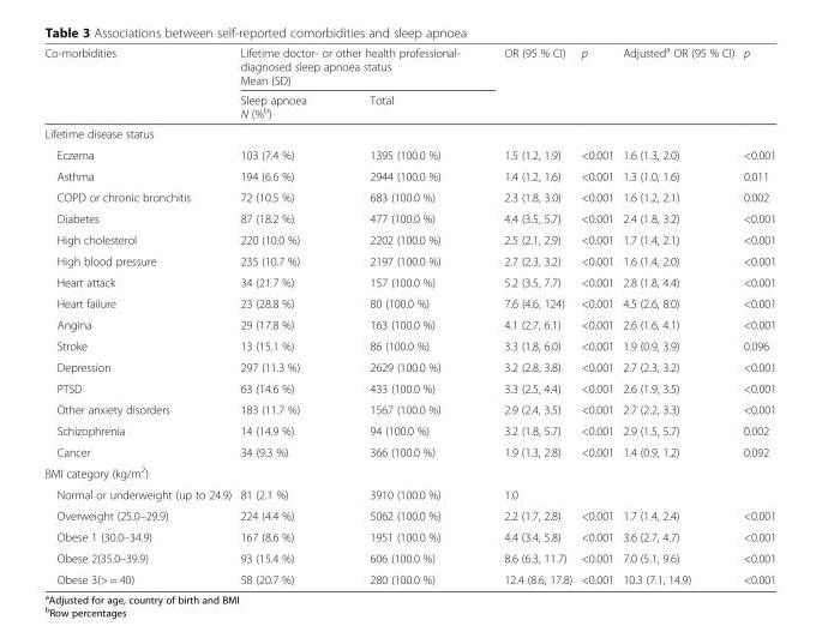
<table><thead><tr><td rowspan="2">Co-morbidities</td><td colspan="2">Lifetime doctor- or other health professional- diagnosed sleep apnoea status Mean (SD)</td><td rowspan="2">OR (95 % CI)</td><td rowspan="2">p</td><td rowspan="2">Adjusted<sup>a</sup> OR (95 % CI)</td><td rowspan="2">p</td></tr><tr><td>Sleep apnoea N (%<sup>b</sup>)</td><td>Total</td></tr></thead><tbody><tr><td colspan="7">Lifetime disease status</td></tr><tr><td>Eczema</td><td>103 (7.4 %)</td><td>1395 (100.0 %)</td><td>1.5 (1.2, 1.9)</td><td>&lt;0.001</td><td>1.6 (1.3, 2.0)</td><td>&lt;0.001</td></tr><tr><td>Asthma</td><td>194 (6.6 %)</td><td>2944 (100.0 %)</td><td>1.4 (1.2, 1.6)</td><td>&lt;0.001</td><td>1.3 (1.0, 1.6)</td><td>0.011</td></tr><tr><td>COPD or chronic bronchitis</td><td>72 (10.5 %)</td><td>683 (100.0 %)</td><td>2.3 (1.8, 3.0)</td><td>&lt;0.001</td><td>1.6 (1.2, 2.1)</td><td>0.002</td></tr><tr><td>Diabetes</td><td>87 (18.2 %)</td><td>477 (100.0 %)</td><td>4.4 (3.5, 5.7)</td><td>&lt;0.001</td><td>2.4 (1.8, 3.2)</td><td>&lt;0.001</td></tr><tr><td>High cholesterol</td><td>220 (10.0 %)</td><td>2202 (100.0 %)</td><td>2.5 (2.1, 2.9)</td><td>&lt;0.001</td><td>1.7 (1.4, 2.1)</td><td>&lt;0.001</td></tr><tr><td>High blood pressure</td><td>235 (10.7 %)</td><td>2197 (100.0 %)</td><td>2.7 (2.3, 3.2)</td><td>&lt;0.001</td><td>1.6 (1.4, 2.0)</td><td>&lt;0.001</td></tr><tr><td>Heart attack</td><td>34 (21.7 %)</td><td>157 (100.0 %)</td><td>5.2 (3.5, 7.7)</td><td>&lt;0.001</td><td>2.8 (1.8, 4.4)</td><td>&lt;0.001</td></tr><tr><td>Heart failure</td><td>23 (28.8 %)</td><td>80 (100.0 %)</td><td>7.6 (4.6, 124)</td><td>&lt;0.001</td><td>4.5 (2.6, 8.0)</td><td>&lt;0.001</td></tr><tr><td>Angina</td><td>29 (17.8 %)</td><td>163 (100.0 %)</td><td>4.1 (2.7, 6.1)</td><td>&lt;0.001</td><td>2.6 (1.6, 4.1)</td><td>&lt;0.001</td></tr><tr><td>Stroke</td><td>13 (15.1 %)</td><td>86 (100.0 %)</td><td>3.3 (1.8, 6.0)</td><td>&lt;0.001</td><td>1.9 (0.9, 3.9)</td><td>0.096</td></tr><tr><td>Depression</td><td>297 (11.3 %)</td><td>2629 (100.0 %)</td><td>3.2 (2.8, 3.8)</td><td>&lt;0.001</td><td>2.7 (2.3, 3.2)</td><td>&lt;0.001</td></tr><tr><td>PTSD</td><td>63 (14.6 %)</td><td>433 (100.0 %)</td><td>3.3 (2.5, 4.4)</td><td>&lt;0.001</td><td>2.6 (1.9, 3.5)</td><td>&lt;0.001</td></tr><tr><td>Other anxiety disorders</td><td>183 (11.7 %)</td><td>1567 (100.0 %)</td><td>2.9 (2.4, 3.5)</td><td>&lt;0.001</td><td>2.7 (2.2, 3.3)</td><td>&lt;0.001</td></tr><tr><td>Schizophrenia</td><td>14 (14.9 %)</td><td>94 (100.0 %)</td><td>3.2 (1.8, 5.7)</td><td>&lt;0.001</td><td>2.9 (1.5, 5.7)</td><td>0.002</td></tr><tr><td>Cancer</td><td>34 (9.3 %)</td><td>366 (100.0 %)</td><td>1.9 (1.3, 2.8)</td><td>&lt;0.001</td><td>1.4 (0.9, 1.2)</td><td>0.092</td></tr><tr><td colspan="7">BMI category (kg/m<sup>2</sup>)</td></tr><tr><td>Normal or underweight (up to 24.9)</td><td>81 (2.1 %)</td><td>3910 (100.0 %)</td><td>1.0</td><td></td><td></td><td></td></tr><tr><td>Overweight (25.0–29.9)</td><td>224 (4.4 %)</td><td>5062 (100.0 %)</td><td>2.2 (1.7, 2.8)</td><td>&lt;0.001</td><td>1.7 (1.4, 2.4)</td><td>&lt;0.001</td></tr><tr><td>Obese 1 (30.0–34.9)</td><td>167 (8.6 %)</td><td>1951 (100.0 %)</td><td>4.4 (3.4, 5.8)</td><td>&lt;0.001</td><td>3.6 (2.7, 4.7)</td><td>&lt;0.001</td></tr><tr><td>Obese 2(35.0–39.9)</td><td>93 (15.4 %)</td><td>606 (100.0 %)</td><td>8.6 (6.3, 11.7)</td><td>&lt;0.001</td><td>7.0 (5.1, 9.6)</td><td>&lt;0.001</td></tr><tr><td>Obese 3(&gt; = 40)</td><td>58 (20.7 %)</td><td>280 (100.0 %)</td><td>12.4 (8.6, 17.8)</td><td>&lt;0.001</td><td>10.3 (7.1, 14.9)</td><td>&lt;0.001</td></tr></tbody></table>